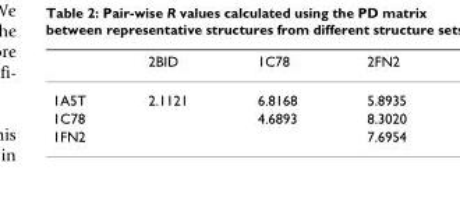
<table><thead><tr><td></td><td>2BID</td><td>1C78</td><td>2FN2</td></tr></thead><tbody><tr><td>1A5T</td><td>2.1121</td><td>6.8168</td><td>5.8935</td></tr><tr><td>1C78</td><td></td><td>4.6893</td><td>8.3020</td></tr><tr><td>1FN2</td><td></td><td></td><td>7.6954</td></tr></tbody></table>